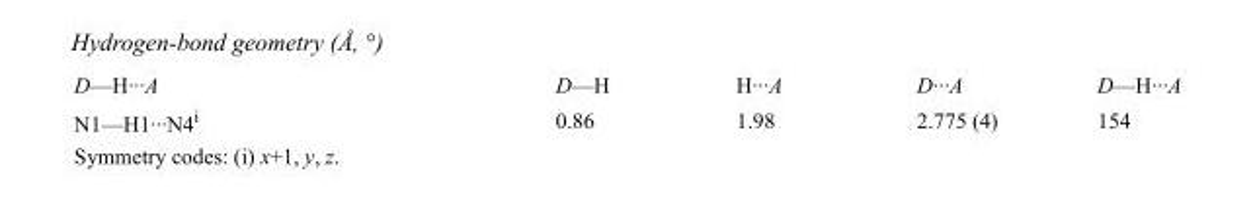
<table><tbody><tr><td>D—H···A</td><td>D—H</td><td>H···A</td><td>D···A</td><td>D—H···A</td></tr><tr><td>N1—H1···N4<sup>i</sup></td><td>0.86</td><td>1.98</td><td>2.775 (4)</td><td>154</td></tr></tbody></table>